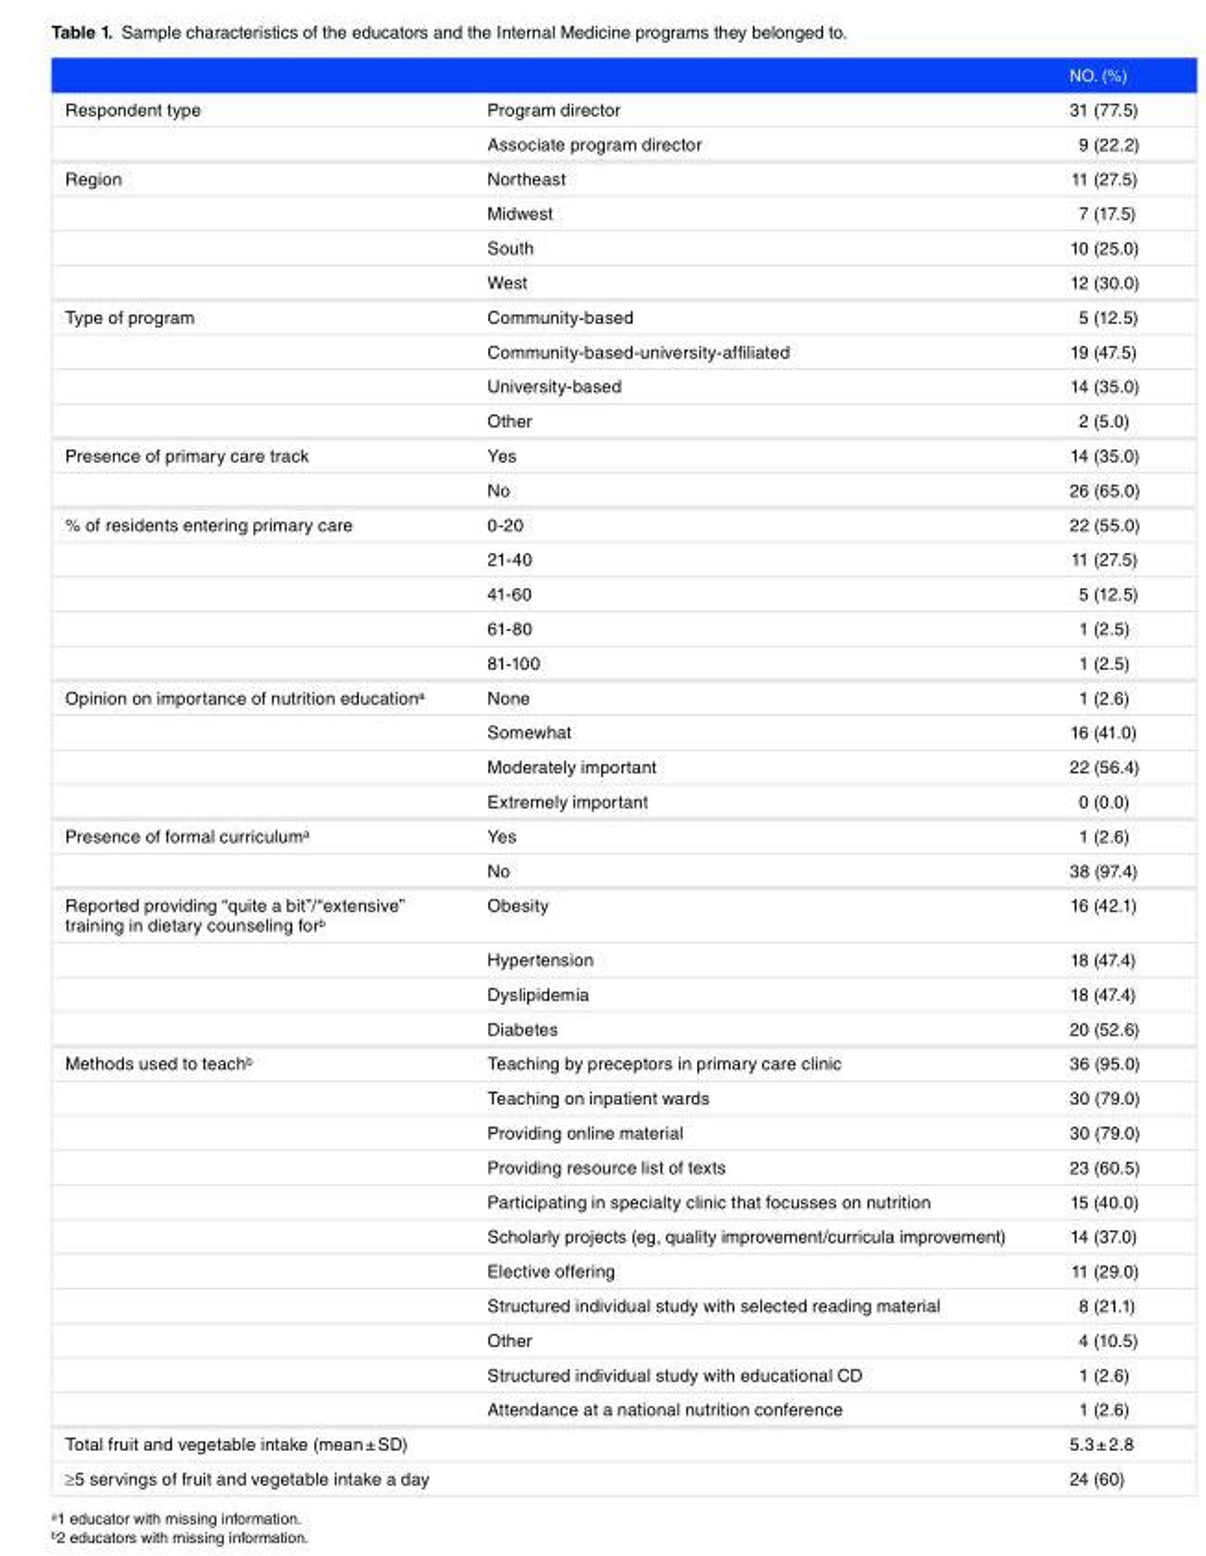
<table><thead><tr><td></td><td></td><td>NO. (%)</td></tr></thead><tbody><tr><td rowspan="2">Respondent type</td><td>Program director</td><td>31 (77.5)</td></tr><tr><td>Associate program director</td><td>9 (22.2)</td></tr><tr><td rowspan="4">Region</td><td>Northeast</td><td>11 (27.5)</td></tr><tr><td>Midwest</td><td>7 (17.5)</td></tr><tr><td>South</td><td>10 (25.0)</td></tr><tr><td>West</td><td>12 (30.0)</td></tr><tr><td rowspan="4">Type of program</td><td>Community-based</td><td>5 (12.5)</td></tr><tr><td>Community-based-university-affiliated</td><td>19 (47.5)</td></tr><tr><td>University-based</td><td>14 (35.0)</td></tr><tr><td>Other</td><td>2 (5.0)</td></tr><tr><td rowspan="2">Presence of primary care track</td><td>Yes</td><td>14 (35.0)</td></tr><tr><td>No</td><td>26 (65.0)</td></tr><tr><td rowspan="5">% of residents entering primary care</td><td>0-20</td><td>22 (55.0)</td></tr><tr><td>21-40</td><td>11 (27.5)</td></tr><tr><td>41-60</td><td>5 (12.5)</td></tr><tr><td>61-80</td><td>1 (2.5)</td></tr><tr><td>81-100</td><td>1 (2.5)</td></tr><tr><td rowspan="4">Opinion on importance of nutrition education<sup>a</sup></td><td>None</td><td>1 (2.6)</td></tr><tr><td>Somewhat</td><td>16 (41.0)</td></tr><tr><td>Moderately important</td><td>22 (56.4)</td></tr><tr><td>Extremely important</td><td>0 (0.0)</td></tr><tr><td rowspan="2">Presence of formal curriculum<sup>a</sup></td><td>Yes</td><td>1 (2.6)</td></tr><tr><td>No</td><td>38 (97.4)</td></tr><tr><td rowspan="4">Reported providing “quite a bit”/“extensive” training in dietary counseling for<sup>b</sup></td><td>Obesity</td><td>16 (42.1)</td></tr><tr><td>Hypertension</td><td>18 (47.4)</td></tr><tr><td>Dyslipidemia</td><td>18 (47.4)</td></tr><tr><td>Diabetes</td><td>20 (52.6)</td></tr><tr><td rowspan="11">Methods used to teach<sup>b</sup></td><td>Teaching by preceptors in primary care clinic</td><td>36 (95.0)</td></tr><tr><td>Teaching on inpatient wards</td><td>30 (79.0)</td></tr><tr><td>Providing online material</td><td>30 (79.0)</td></tr><tr><td>Providing resource list of texts</td><td>23 (60.5)</td></tr><tr><td>Participating in specialty clinic that focusses on nutrition</td><td>15 (40.0)</td></tr><tr><td>Scholarly projects (eg, quality improvement/curricula improvement)</td><td>14 (37.0)</td></tr><tr><td>Elective offering</td><td>11 (29.0)</td></tr><tr><td>Structured individual study with selected reading material</td><td>8 (21.1)</td></tr><tr><td>Other</td><td>4 (10.5)</td></tr><tr><td>Structured individual study with educational CD</td><td>1 (2.6)</td></tr><tr><td>Attendance at a national nutrition conference</td><td>1 (2.6)</td></tr><tr><td>Total fruit and vegetable intake (mean ± SD)</td><td></td><td>5.3 ± 2.8</td></tr><tr><td>≥5 servings of fruit and vegetable intake a day</td><td></td><td>24 (60)</td></tr></tbody></table>